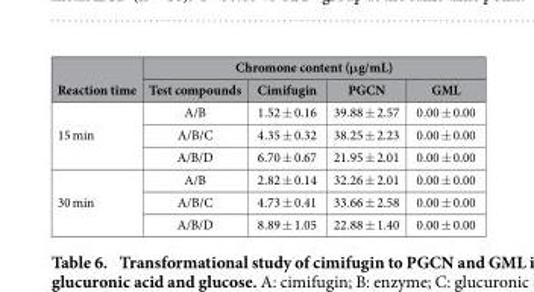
<table><thead><tr><td rowspan="2">Reaction time</td><td colspan="4">Chromone content (μg/mL)</td></tr><tr><td>Test compounds</td><td>Cimifugin</td><td>PGCN</td><td>GML</td></tr></thead><tbody><tr><td rowspan="3">15 min</td><td>A/B</td><td>1.52 ± 0.16</td><td>39.88 ± 2.57</td><td>0.00 ± 0.00</td></tr><tr><td>A/B/C</td><td>4.35 ± 0.32</td><td>38.25 ± 2.23</td><td>0.00 ± 0.00</td></tr><tr><td>A/B/D</td><td>6.70 ± 0.67</td><td>21.95 ± 2.01</td><td>0.00 ± 0.00</td></tr><tr><td rowspan="3">30 min</td><td>A/B</td><td>2.82 ± 0.14</td><td>32.26 ± 2.01</td><td>0.00 ± 0.00</td></tr><tr><td>A/B/C</td><td>4.73 ± 0.41</td><td>33.66 ± 2.58</td><td>0.00 ± 0.00</td></tr><tr><td>A/B/D</td><td>8.89 ± 1.05</td><td>22.88 ± 1.40</td><td>0.00 ± 0.00</td></tr></tbody></table>